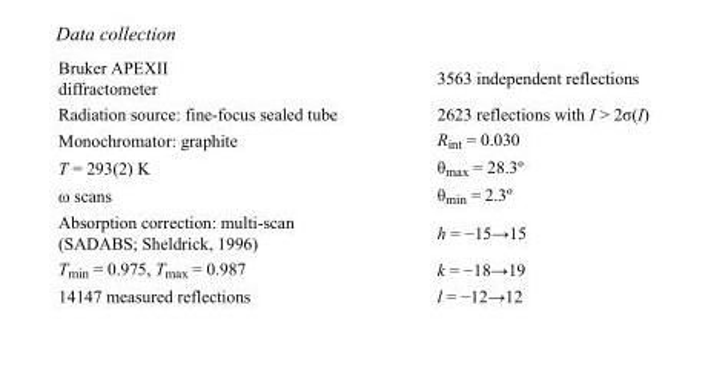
<table><tbody><tr><td>Bruker APEXII diffractometer</td><td>3563 independent reflections</td></tr><tr><td>Radiation source: fine-focus sealed tube</td><td>2623 reflections with I &gt; 2σ(I)</td></tr><tr><td>Monochromator: graphite</td><td>R<sub>int</sub> = 0.030</td></tr><tr><td>T = 293(2) K</td><td>θ<sub>max</sub> = 28.3º</td></tr><tr><td>ω scans</td><td>θ<sub>min</sub> = 2.3º</td></tr><tr><td>Absorption correction: multi-scan (SADABS; Sheldrick, 1996)</td><td>h = −15→15</td></tr><tr><td>T<sub>min</sub> = 0.975, T<sub>max</sub> = 0.987</td><td>k = −18→19</td></tr><tr><td>14147 measured reflections</td><td>l = −12→12</td></tr></tbody></table>